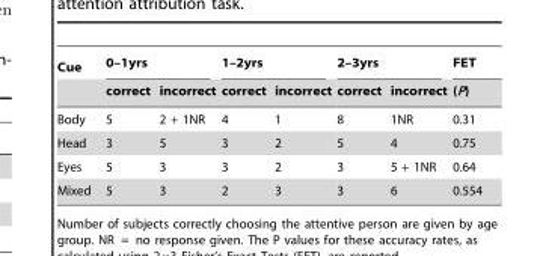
<table><thead><tr><td rowspan="2">Cue</td><td colspan="2">0–1yrs</td><td colspan="2">1–2yrs</td><td colspan="2">2–3yrs</td><td rowspan="2">FET (P)</td></tr><tr><td>correct</td><td>incorrect</td><td>correct</td><td>incorrect</td><td>correct</td><td>incorrect</td></tr></thead><tbody><tr><td>Body</td><td>5</td><td>2 + 1NR</td><td>4</td><td>1</td><td>8</td><td>1NR</td><td>0.31</td></tr><tr><td>Head</td><td>3</td><td>5</td><td>3</td><td>2</td><td>5</td><td>4</td><td>0.75</td></tr><tr><td>Eyes</td><td>5</td><td>3</td><td>3</td><td>2</td><td>3</td><td>5 + 1NR</td><td>0.64</td></tr><tr><td>Mixed</td><td>5</td><td>3</td><td>2</td><td>3</td><td>3</td><td>6</td><td>0.554</td></tr></tbody></table>